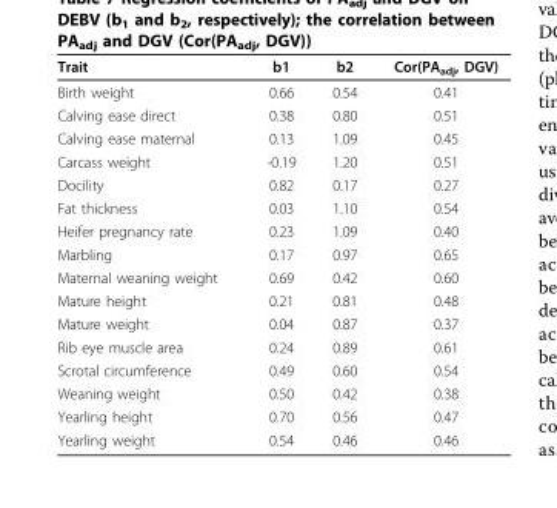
<table><thead><tr><td>Trait</td><td>b1</td><td>b2</td><td>Cor(PA<sub>adj</sub>, DGV)</td></tr></thead><tbody><tr><td>Birth weight</td><td>0.66</td><td>0.54</td><td>0.41</td></tr><tr><td>Calving ease direct</td><td>0.38</td><td>0.80</td><td>0.51</td></tr><tr><td>Calving ease maternal</td><td>0.13</td><td>1.09</td><td>0.45</td></tr><tr><td>Carcass weight</td><td>-0.19</td><td>1.20</td><td>0.51</td></tr><tr><td>Docility</td><td>0.82</td><td>0.17</td><td>0.27</td></tr><tr><td>Fat thickness</td><td>0.03</td><td>1.10</td><td>0.54</td></tr><tr><td>Heifer pregnancy rate</td><td>0.23</td><td>1.09</td><td>0.40</td></tr><tr><td>Marbling</td><td>0.17</td><td>0.97</td><td>0.65</td></tr><tr><td>Maternal weaning weight</td><td>0.69</td><td>0.42</td><td>0.60</td></tr><tr><td>Mature height</td><td>0.21</td><td>0.81</td><td>0.48</td></tr><tr><td>Mature weight</td><td>0.04</td><td>0.87</td><td>0.37</td></tr><tr><td>Rib eye muscle area</td><td>0.24</td><td>0.89</td><td>0.61</td></tr><tr><td>Scrotal circumference</td><td>0.49</td><td>0.60</td><td>0.54</td></tr><tr><td>Weaning weight</td><td>0.50</td><td>0.42</td><td>0.38</td></tr><tr><td>Yearling height</td><td>0.70</td><td>0.56</td><td>0.47</td></tr><tr><td>Yearling weight</td><td>0.54</td><td>0.46</td><td>0.46</td></tr></tbody></table>